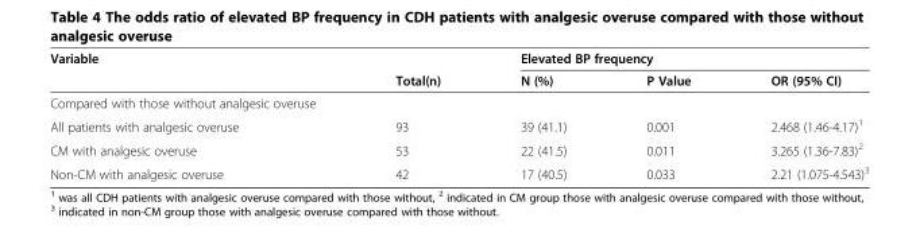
<table><thead><tr><td rowspan="2">Variable</td><td rowspan="2">Total(n)</td><td colspan="3">Elevated BP frequency</td></tr><tr><td>N (%)</td><td>P Value</td><td>OR (95% CI)</td></tr></thead><tbody><tr><td colspan="5">Compared with those without analgesic overuse</td></tr><tr><td>All patients with analgesic overuse</td><td>93</td><td>39 (41.1)</td><td>0.001</td><td>2.468 (1.46-4.17)<sup>1</sup></td></tr><tr><td>CM with analgesic overuse</td><td>53</td><td>22 (41.5)</td><td>0.011</td><td>3.265 (1.36-7.83)<sup>2</sup></td></tr><tr><td>Non-CM with analgesic overuse</td><td>42</td><td>17 (40.5)</td><td>0.033</td><td>2.21 (1.075-4.543)<sup>3</sup></td></tr></tbody></table>